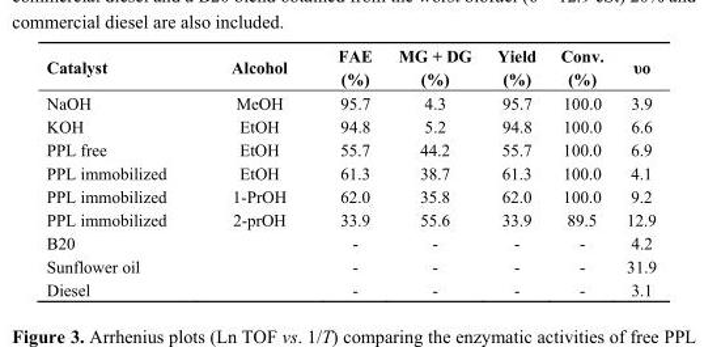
<table><thead><tr><td>Catalyst</td><td>Alcohol</td><td>FAE (%)</td><td>MG + DG (%)</td><td>Yield (%)</td><td>Conv. (%)</td><td>υo</td></tr></thead><tbody><tr><td>NaOH</td><td>MeOH</td><td>95.7</td><td>4.3</td><td>95.7</td><td>100.0</td><td>3.9</td></tr><tr><td>KOH</td><td>EtOH</td><td>94.8</td><td>5.2</td><td>94.8</td><td>100.0</td><td>6.6</td></tr><tr><td>PPL free</td><td>EtOH</td><td>55.7</td><td>44.2</td><td>55.7</td><td>100.0</td><td>6.9</td></tr><tr><td>PPL immobilized</td><td>EtOH</td><td>61.3</td><td>38.7</td><td>61.3</td><td>100.0</td><td>4.1</td></tr><tr><td>PPL immobilized</td><td>1-PrOH</td><td>62.0</td><td>35.8</td><td>62.0</td><td>100.0</td><td>9.2</td></tr><tr><td>PPL immobilized</td><td>2-prOH</td><td>33.9</td><td>55.6</td><td>33.9</td><td>89.5</td><td>12.9</td></tr><tr><td>B20</td><td></td><td>-</td><td>-</td><td>-</td><td>-</td><td>4.2</td></tr><tr><td>Sunflower oil</td><td></td><td>-</td><td>-</td><td>-</td><td>-</td><td>31.9</td></tr><tr><td>Diesel</td><td></td><td>-</td><td>-</td><td>-</td><td>-</td><td>3.1</td></tr></tbody></table>